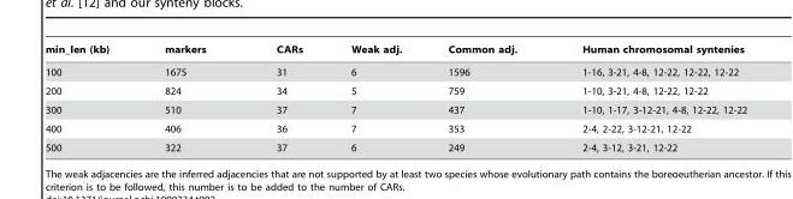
<table><thead><tr><td>min_len (kb)</td><td>markers</td><td>CARs</td><td>Weak adj.</td><td>Common adj.</td><td>Human chromosomal syntenies</td></tr></thead><tbody><tr><td>100</td><td>1675</td><td>31</td><td>6</td><td>1596</td><td>1-16, 3-21, 4-8, 12-22, 12-22, 12-22</td></tr><tr><td>200</td><td>824</td><td>34</td><td>5</td><td>759</td><td>1-10, 3-21, 4-8, 12-22, 12-22</td></tr><tr><td>300</td><td>510</td><td>37</td><td>7</td><td>437</td><td>1-10, 1-17, 3-12-21, 4-8, 12-22, 12-22</td></tr><tr><td>400</td><td>406</td><td>36</td><td>7</td><td>353</td><td>2-4, 2-22, 3-12-21, 12-22</td></tr><tr><td>500</td><td>322</td><td>37</td><td>6</td><td>249</td><td>2-4, 3-12, 3-21, 12-22</td></tr></tbody></table>